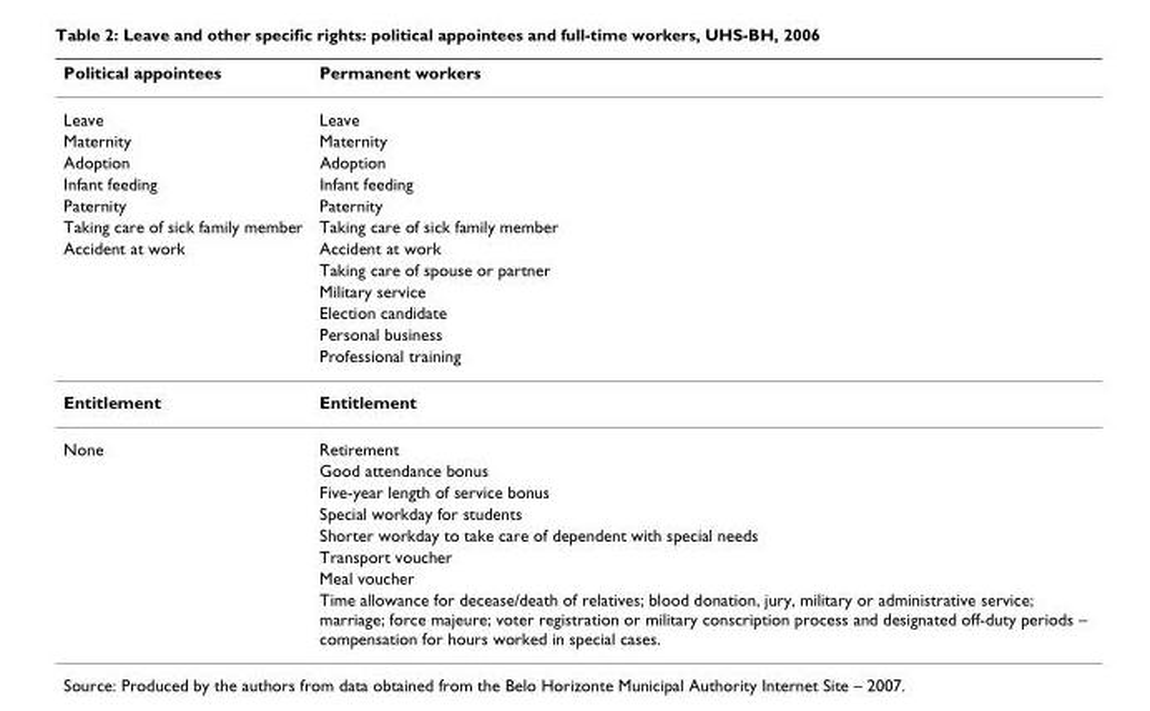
<table><thead><tr><td>Political appointees</td><td>Permanent workers</td></tr></thead><tbody><tr><td>Leave</td><td>Leave</td></tr><tr><td>Maternity</td><td>Maternity</td></tr><tr><td>Adoption</td><td>Adoption</td></tr><tr><td>Infant feeding</td><td>Infant feeding</td></tr><tr><td>Paternity</td><td>Paternity</td></tr><tr><td>Taking care of sick family member</td><td>Taking care of sick family member</td></tr><tr><td rowspan="6">Accident at work</td><td>Accident at work</td></tr><tr><td>Taking care of spouse or partner</td></tr><tr><td>Military service</td></tr><tr><td>Election candidate</td></tr><tr><td>Personal business</td></tr><tr><td>Professional training</td></tr><tr><td>Entitlement</td><td>Entitlement</td></tr><tr><td rowspan="8">None</td><td>Retirement</td></tr><tr><td>Good attendance bonus</td></tr><tr><td>Five-year length of service bonus</td></tr><tr><td>Special workday for students</td></tr><tr><td>Shorter workday to take care of dependent with special needs</td></tr><tr><td>Transport voucher</td></tr><tr><td>Meal voucher</td></tr><tr><td>Time allowance for decease/death of relatives; blood donation, jury, military or administrative service; marriage; force majeure; voter registration or military conscription process and designated off-duty periods – compensation for hours worked in special cases.</td></tr></tbody></table>